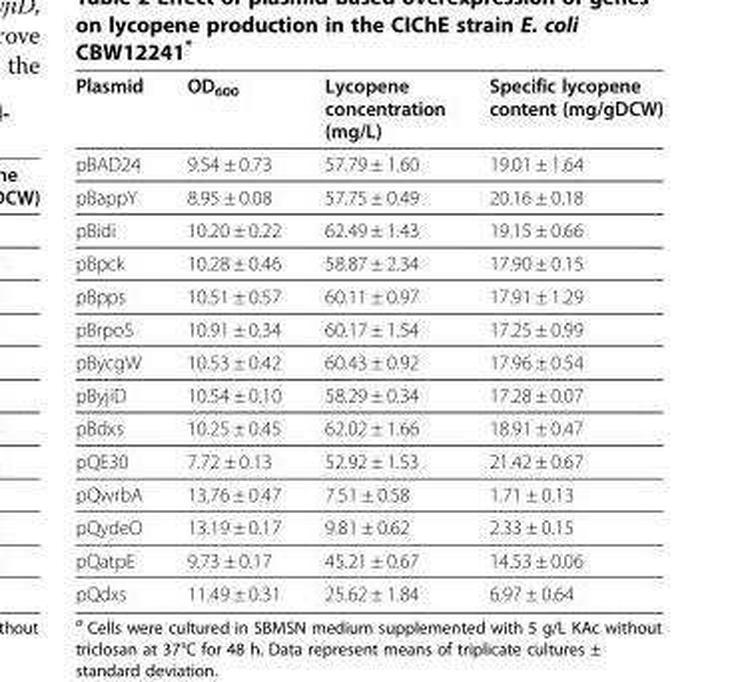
<table><thead><tr><td>Plasmid</td><td>OD<sub>600</sub></td><td>Lycopene concentration (mg/L)</td><td>Specific lycopene content (mg/gDCW)</td></tr></thead><tbody><tr><td>pBAD24</td><td>9.54 ± 0.73</td><td>57.79 ± 1.60</td><td>19.01 ± 1.64</td></tr><tr><td>pBappY</td><td>8.95 ± 0.08</td><td>57.75 ± 0.49</td><td>20.16 ± 0.18</td></tr><tr><td>pBidi</td><td>10.20 ± 0.22</td><td>62.49 ± 1.43</td><td>19.15 ± 0.66</td></tr><tr><td>pBpck</td><td>10.28 ± 0.46</td><td>58.87 ± 2.34</td><td>17.90 ± 0.15</td></tr><tr><td>pBpps</td><td>10.51 ± 0.57</td><td>60.11 ± 0.97</td><td>17.91 ± 1.29</td></tr><tr><td>pBrpoS</td><td>10.91 ± 0.34</td><td>60.17 ± 1.54</td><td>17.25 ± 0.99</td></tr><tr><td>pBycgW</td><td>10.53 ± 0.42</td><td>60.43 ± 0.92</td><td>17.96 ± 0.54</td></tr><tr><td>pByjiD</td><td>10.54 ± 0.10</td><td>58.29 ± 0.34</td><td>17.28 ± 0.07</td></tr><tr><td>pBdxs</td><td>10.25 ± 0.45</td><td>62.02 ± 1.66</td><td>18.91 ± 0.47</td></tr><tr><td>pQE30</td><td>7.72 ± 0.13</td><td>52.92 ± 1.53</td><td>21.42 ± 0.67</td></tr><tr><td>pQwrbA</td><td>13.76 ± 0.47</td><td>7.51 ± 0.58</td><td>1.71 ± 0.13</td></tr><tr><td>pQydeO</td><td>13.19 ± 0.17</td><td>9.81 ± 0.62</td><td>2.33 ± 0.15</td></tr><tr><td>pQatpE</td><td>9.73 ± 0.17</td><td>45.21 ± 0.67</td><td>14.53 ± 0.06</td></tr><tr><td>pQdxs</td><td>11.49 ± 0.31</td><td>25.62 ± 1.84</td><td>6.97 ± 0.64</td></tr></tbody></table>